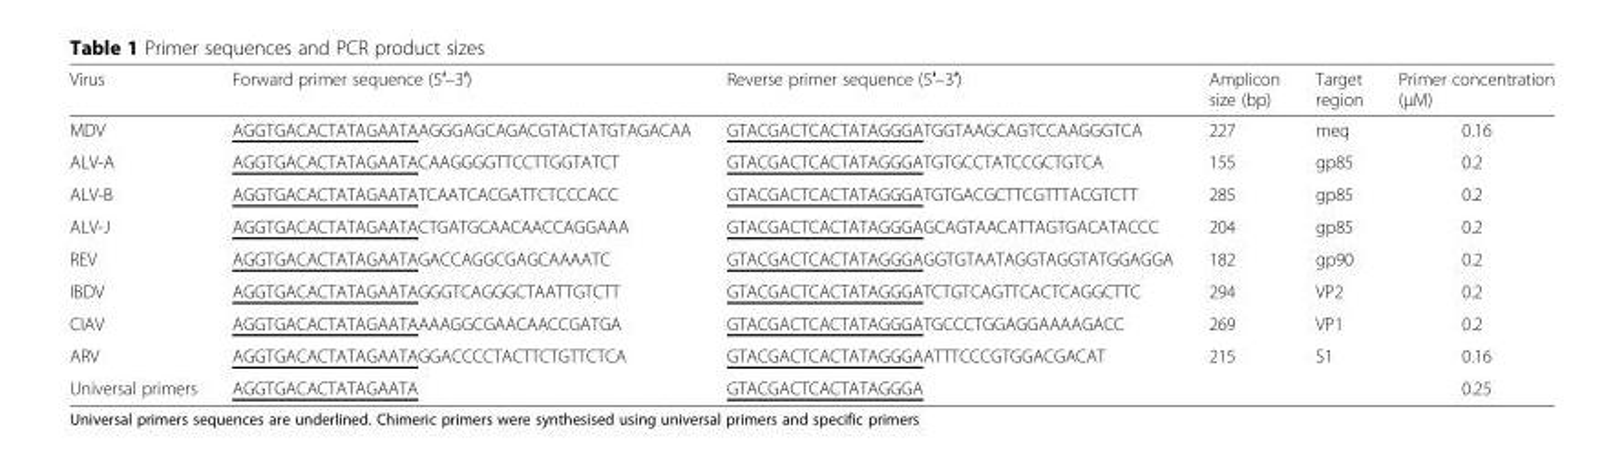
<table><thead><tr><td>Virus</td><td>Forward primer sequence (5′–3′)</td><td>Reverse primer sequence (5′–3′)</td><td>Amplicon size (bp)</td><td>Target region</td><td>Primer concentration (μM)</td></tr></thead><tbody><tr><td>MDV</td><td>AGGTGACACTATAGAATAAGGGAGCAGACGTACTATGTAGACAA</td><td>GTACGACTCACTATAGGGATGGTAAGCAGTCCAAGGGTCA</td><td>227</td><td>meq</td><td>0.16</td></tr><tr><td>ALV-A</td><td>AGGTGACACTATAGAATACAAGGGGTTCCTTGGTATCT</td><td>GTACGACTCACTATAGGGATGTGCCTATCCGCTGTCA</td><td>155</td><td>gp85</td><td>0.2</td></tr><tr><td>ALV-B</td><td>AGGTGACACTATAGAATATCAATCACGATTCTCCCACC</td><td>GTACGACTCACTATAGGGATGTGACGCTTCGTTTACGTCTT</td><td>285</td><td>gp85</td><td>0.2</td></tr><tr><td>ALV-J</td><td>AGGTGACACTATAGAATACTGATGCAACAACCAGGAAA</td><td>GTACGACTCACTATAGGGAGCAGTAACATTAGTGACATACCC</td><td>204</td><td>gp85</td><td>0.2</td></tr><tr><td>REV</td><td>AGGTGACACTATAGAATAGACCAGGCGAGCAAAATC</td><td>GTACGACTCACTATAGGGAGGTGTAATAGGTAGGTATGGAGGA</td><td>182</td><td>gp90</td><td>0.2</td></tr><tr><td>IBDV</td><td>AGGTGACACTATAGAATAGGGTCAGGGCTAATTGTCTT</td><td>GTACGACTCACTATAGGGATCTGTCAGTTCACTCAGGCTTC</td><td>294</td><td>VP2</td><td>0.2</td></tr><tr><td>CIAV</td><td>AGGTGACACTATAGAATAAAAGGCGAACAACCGATGA</td><td>GTACGACTCACTATAGGGATGCCCTGGAGGAAAAGACC</td><td>269</td><td>VP1</td><td>0.2</td></tr><tr><td>ARV</td><td>AGGTGACACTATAGAATAGGACCCCTACTTCTGTTCTCA</td><td>GTACGACTCACTATAGGGAATTTCCCGTGGACGACAT</td><td>215</td><td>S1</td><td>0.16</td></tr><tr><td>Universal primers</td><td>AGGTGACACTATAGAATA</td><td>GTACGACTCACTATAGGGA</td><td></td><td></td><td>0.25</td></tr></tbody></table>